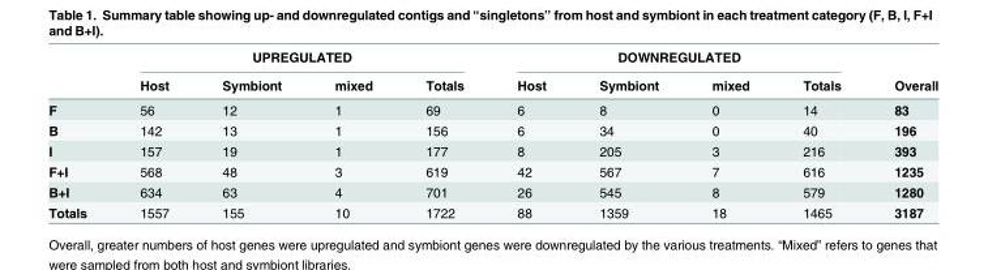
<table><thead><tr><td rowspan="2"></td><td colspan="4">UPREGULATED</td><td colspan="4">DOWNREGULATED</td><td rowspan="2">Overall</td></tr><tr><td>Host</td><td>Symbiont</td><td>mixed</td><td>Totals</td><td>Host</td><td>Symbiont</td><td>mixed</td><td>Totals</td></tr></thead><tbody><tr><td>F</td><td>56</td><td>12</td><td>1</td><td>69</td><td>6</td><td>8</td><td>0</td><td>14</td><td>83</td></tr><tr><td>B</td><td>142</td><td>13</td><td>1</td><td>156</td><td>6</td><td>34</td><td>0</td><td>40</td><td>196</td></tr><tr><td>I</td><td>157</td><td>19</td><td>1</td><td>177</td><td>8</td><td>205</td><td>3</td><td>216</td><td>393</td></tr><tr><td>F+I</td><td>568</td><td>48</td><td>3</td><td>619</td><td>42</td><td>567</td><td>7</td><td>616</td><td>1235</td></tr><tr><td>B+I</td><td>634</td><td>63</td><td>4</td><td>701</td><td>26</td><td>545</td><td>8</td><td>579</td><td>1280</td></tr><tr><td>Totals</td><td>1557</td><td>155</td><td>10</td><td>1722</td><td>88</td><td>1359</td><td>18</td><td>1465</td><td>3187</td></tr></tbody></table>